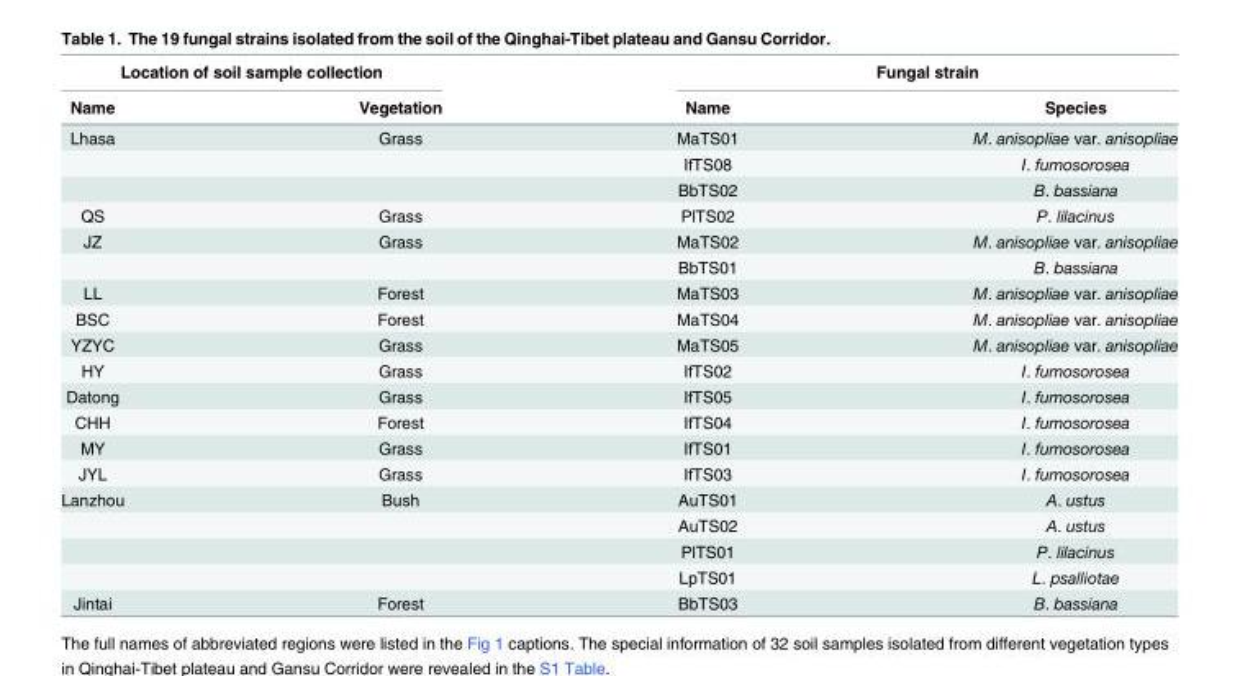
<table><thead><tr><td colspan="2">Location of soil sample collection</td><td colspan="2">Fungal strain</td></tr><tr><td>Name</td><td>Vegetation</td><td>Name</td><td>Species</td></tr></thead><tbody><tr><td rowspan="3">Lhasa</td><td>Grass</td><td>MaTS01</td><td>M. anisopliae var. anisopliae</td></tr><tr><td></td><td>IfTS08</td><td>I. fumosorosea</td></tr><tr><td></td><td>BbTS02</td><td>B. bassiana</td></tr><tr><td>QS</td><td>Grass</td><td>PlTS02</td><td>P. lilacinus</td></tr><tr><td rowspan="2">JZ</td><td>Grass</td><td>MaTS02</td><td>M. anisopliae var. anisopliae</td></tr><tr><td></td><td>BbTS01</td><td>B. bassiana</td></tr><tr><td>LL</td><td>Forest</td><td>MaTS03</td><td>M. anisopliae var. anisopliae</td></tr><tr><td>BSC</td><td>Forest</td><td>MaTS04</td><td>M. anisopliae var. anisopliae</td></tr><tr><td>YZYC</td><td>Grass</td><td>MaTS05</td><td>M. anisopliae var. anisopliae</td></tr><tr><td>HY</td><td>Grass</td><td>IfTS02</td><td>I. fumosorosea</td></tr><tr><td>Datong</td><td>Grass</td><td>IfTS05</td><td>I. fumosorosea</td></tr><tr><td>CHH</td><td>Forest</td><td>IfTS04</td><td>I. fumosorosea</td></tr><tr><td>MY</td><td>Grass</td><td>IfTS01</td><td>I. fumosorosea</td></tr><tr><td>JYL</td><td>Grass</td><td>IfTS03</td><td>I. fumosorosea</td></tr><tr><td rowspan="4">Lanzhou</td><td>Bush</td><td>AuTS01</td><td>A. ustus</td></tr><tr><td></td><td>AuTS02</td><td>A. ustus</td></tr><tr><td></td><td>PlTS01</td><td>P. lilacinus</td></tr><tr><td></td><td>LpTS01</td><td>L. psalliotae</td></tr><tr><td>Jintai</td><td>Forest</td><td>BbTS03</td><td>B. bassiana</td></tr></tbody></table>